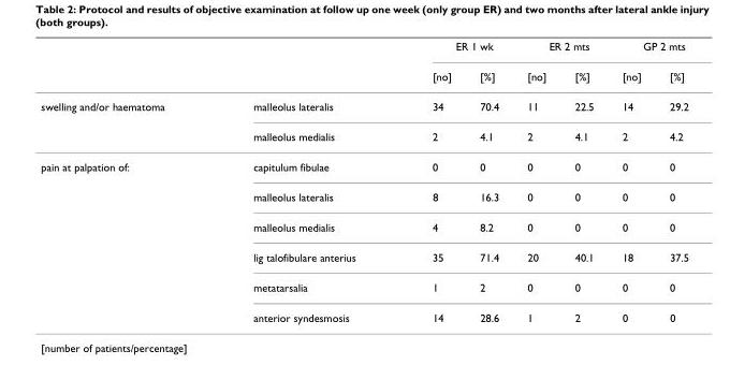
<table><thead><tr><td rowspan="2"></td><td rowspan="2"></td><td colspan="2">ER 1 wk</td><td colspan="2">ER 2 mts</td><td colspan="2">GP 2 mts</td></tr><tr><td>[no]</td><td>[%]</td><td>[no]</td><td>[%]</td><td>[no]</td><td>[%]</td></tr></thead><tbody><tr><td rowspan="2">swelling and/or haematoma</td><td>malleolus lateralis</td><td>34</td><td>70.4</td><td>11</td><td>22.5</td><td>14</td><td>29.2</td></tr><tr><td>malleolus medialis</td><td>2</td><td>4.1</td><td>2</td><td>4.1</td><td>2</td><td>4.2</td></tr><tr><td rowspan="6">pain at palpation of:</td><td>capitulum fibulae</td><td>0</td><td>0</td><td>0</td><td>0</td><td>0</td><td>0</td></tr><tr><td>malleolus lateralis</td><td>8</td><td>16.3</td><td>0</td><td>0</td><td>0</td><td>0</td></tr><tr><td>malleolus medialis</td><td>4</td><td>8.2</td><td>0</td><td>0</td><td>0</td><td>0</td></tr><tr><td>lig talofibulare anterius</td><td>35</td><td>71.4</td><td>20</td><td>40.1</td><td>18</td><td>37.5</td></tr><tr><td>metatarsalia</td><td>1</td><td>2</td><td>0</td><td>0</td><td>0</td><td>0</td></tr><tr><td>anterior syndesmosis</td><td>14</td><td>28.6</td><td>1</td><td>2</td><td>0</td><td>0</td></tr></tbody></table>